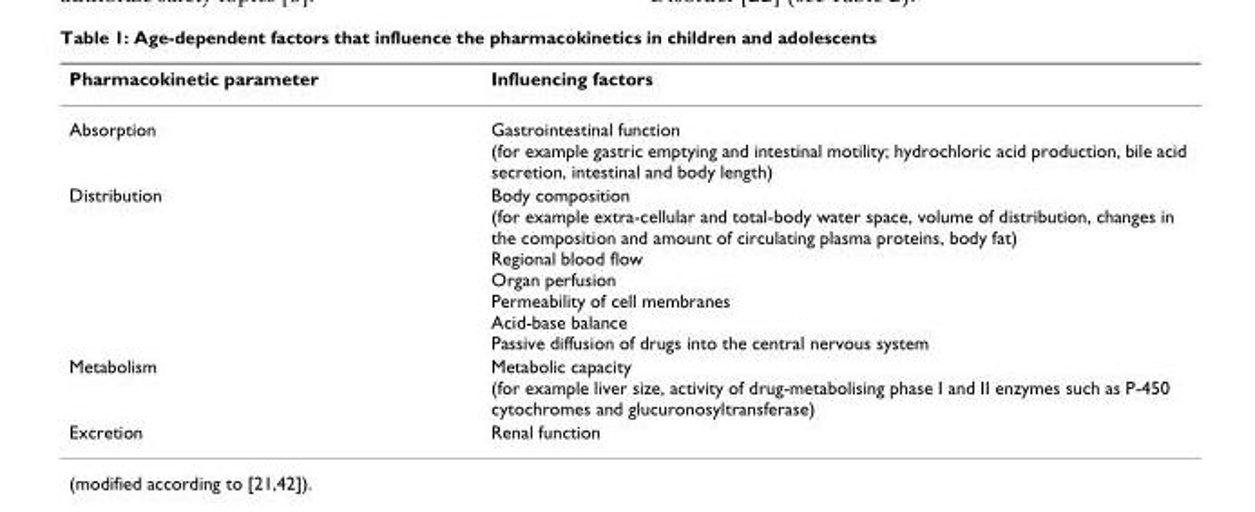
<table><thead><tr><td>Pharmacokinetic parameter</td><td>Influencing factors</td></tr></thead><tbody><tr><td>Absorption</td><td>Gastrointestinal function (for example gastric emptying and intestinal motility; hydrochloric acid production, bile acid secretion, intestinal and body length)</td></tr><tr><td>Distribution</td><td>Body composition (for example extra-cellular and total-body water space, volume of distribution, changes in the composition and amount of circulating plasma proteins, body fat) Regional blood flow Organ perfusion Permeability of cell membranes Acid-base balance Passive diffusion of drugs into the central nervous system</td></tr><tr><td>Metabolism</td><td>Metabolic capacity (for example liver size, activity of drug-metabolising phase I and II enzymes such as P-450 cytochromes and glucuronosyltransferase)</td></tr><tr><td>Excretion</td><td>Renal function</td></tr></tbody></table>